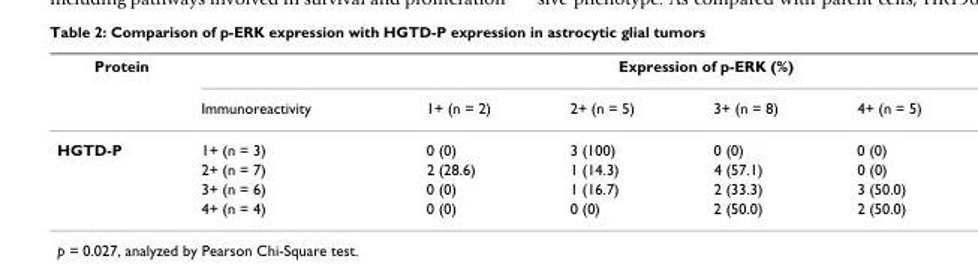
<table><thead><tr><td rowspan="2">Protein</td><td rowspan="2">Immunoreactivity</td><td colspan="4">Expression of p-ERK (%)</td></tr><tr><td>1+ (n = 2)</td><td>2+ (n = 5)</td><td>3+ (n = 8)</td><td>4+ (n = 5)</td></tr></thead><tbody><tr><td rowspan="4">HGTD-P</td><td>1+ (n = 3)</td><td>0 (0)</td><td>3 (100)</td><td>0 (0)</td><td>0 (0)</td></tr><tr><td>2+ (n = 7)</td><td>2 (28.6)</td><td>1 (14.3)</td><td>4 (57.1)</td><td>0 (0)</td></tr><tr><td>3+ (n = 6)</td><td>0 (0)</td><td>1 (16.7)</td><td>2 (33.3)</td><td>3 (50.0)</td></tr><tr><td>4+ (n = 4)</td><td>0 (0)</td><td>0 (0)</td><td>2 (50.0)</td><td>2 (50.0)</td></tr></tbody></table>